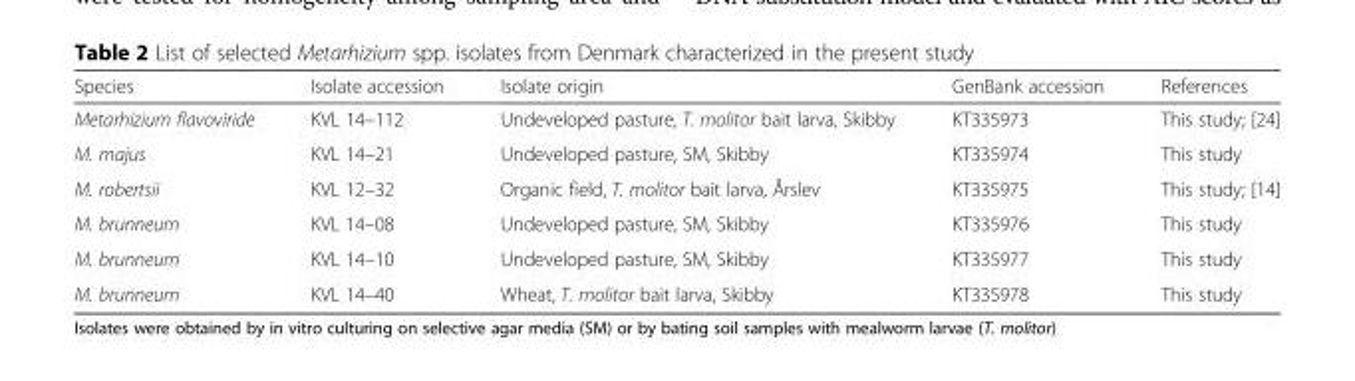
<table><thead><tr><td>Species</td><td>Isolate accession</td><td>Isolate origin</td><td>GenBank accession</td><td>References</td></tr></thead><tbody><tr><td>Metarhizium flavoviride</td><td>KVL 14–112</td><td>Undeveloped pasture, T. molitor bait larva, Skibby</td><td>KT335973</td><td>This study; [24]</td></tr><tr><td>M. majus</td><td>KVL 14–21</td><td>Undeveloped pasture, SM, Skibby</td><td>KT335974</td><td>This study</td></tr><tr><td>M. robertsii</td><td>KVL 12–32</td><td>Organic field, T. molitor bait larva, Årslev</td><td>KT335975</td><td>This study; [14]</td></tr><tr><td>M. brunneum</td><td>KVL 14–08</td><td>Undeveloped pasture, SM, Skibby</td><td>KT335976</td><td>This study</td></tr><tr><td>M. brunneum</td><td>KVL 14–10</td><td>Undeveloped pasture, SM, Skibby</td><td>KT335977</td><td>This study</td></tr><tr><td>M. brunneum</td><td>KVL 14–40</td><td>Wheat, T. molitor bait larva, Skibby</td><td>KT335978</td><td>This study</td></tr></tbody></table>